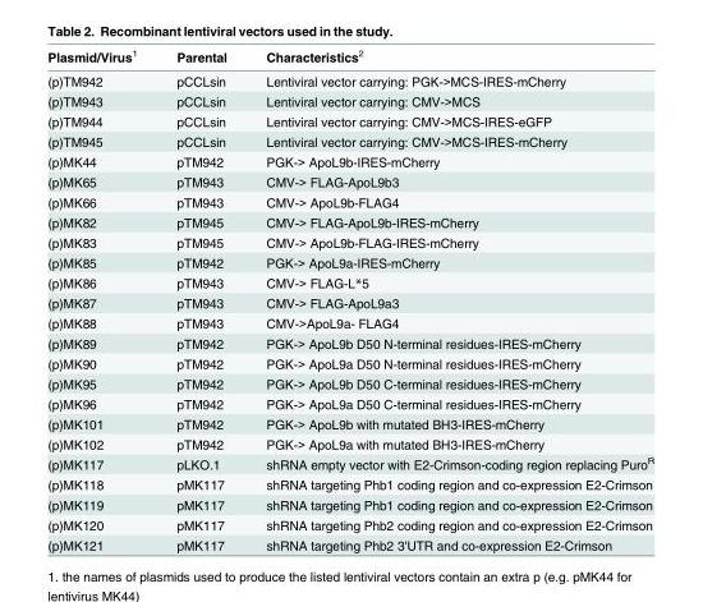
<table><thead><tr><td>Plasmid/Virus<sup>1</sup></td><td>Parental</td><td>Characteristics<sup>2</sup></td></tr></thead><tbody><tr><td>(p)TM942</td><td>pCCLsin</td><td>Lentiviral vector carrying: PGK-&gt;MCS-IRES-mCherry</td></tr><tr><td>(p)TM943</td><td>pCCLsin</td><td>Lentiviral vector carrying: CMV-&gt;MCS</td></tr><tr><td>(p)TM944</td><td>pCCLsin</td><td>Lentiviral vector carrying: CMV-&gt;MCS-IRES-eGFP</td></tr><tr><td>(p)TM945</td><td>pCCLsin</td><td>Lentiviral vector carrying: CMV-&gt;MCS-IRES-mCherry</td></tr><tr><td>(p)MK44</td><td>pTM942</td><td>PGK-&gt; ApoL9b-IRES-mCherry</td></tr><tr><td>(p)MK65</td><td>pTM943</td><td>CMV-&gt; FLAG-ApoL9b3</td></tr><tr><td>(p)MK66</td><td>pTM943</td><td>CMV-&gt; ApoL9b-FLAG4</td></tr><tr><td>(p)MK82</td><td>pTM945</td><td>CMV-&gt; FLAG-ApoL9b-IRES-mCherry</td></tr><tr><td>(p)MK83</td><td>pTM945</td><td>CMV-&gt; ApoL9b-FLAG-IRES-mCherry</td></tr><tr><td>(p)MK85</td><td>pTM942</td><td>PGK-&gt; ApoL9a-IRES-mCherry</td></tr><tr><td>(p)MK86</td><td>pTM943</td><td>CMV-&gt; FLAG-L*5</td></tr><tr><td>(p)MK87</td><td>pTM943</td><td>CMV-&gt; FLAG-ApoL9a3</td></tr><tr><td>(p)MK88</td><td>pTM943</td><td>CMV-&gt;ApoL9a- FLAG4</td></tr><tr><td>(p)MK89</td><td>pTM942</td><td>PGK-&gt; ApoL9b D50 N-terminal residues-IRES-mCherry</td></tr><tr><td>(p)MK90</td><td>pTM942</td><td>PGK-&gt; ApoL9a D50 N-terminal residues-IRES-mCherry</td></tr><tr><td>(p)MK95</td><td>pTM942</td><td>PGK-&gt; ApoL9b D50 C-terminal residues-IRES-mCherry</td></tr><tr><td>(p)MK96</td><td>pTM942</td><td>PGK-&gt; ApoL9a D50 C-terminal residues-IRES-mCherry</td></tr><tr><td>(p)MK101</td><td>pTM942</td><td>PGK-&gt; ApoL9b with mutated BH3-IRES-mCherry</td></tr><tr><td>(p)MK102</td><td>pTM942</td><td>PGK-&gt; ApoL9a with mutated BH3-IRES-mCherry</td></tr><tr><td>(p)MK117</td><td>pLKO.1</td><td>shRNA empty vector with E2-Crimson-coding region replacing Puro<sup>R</sup></td></tr><tr><td>(p)MK118</td><td>pMK117</td><td>shRNA targeting Phb1 coding region and co-expression E2-Crimson</td></tr><tr><td>(p)MK119</td><td>pMK117</td><td>shRNA targeting Phb1 coding region and co-expression E2-Crimson</td></tr><tr><td>(p)MK120</td><td>pMK117</td><td>shRNA targeting Phb2 coding region and co-expression E2-Crimson</td></tr><tr><td>(p)MK121</td><td>pMK117</td><td>shRNA targeting Phb2 3&#x27;UTR and co-expression E2-Crimson</td></tr></tbody></table>